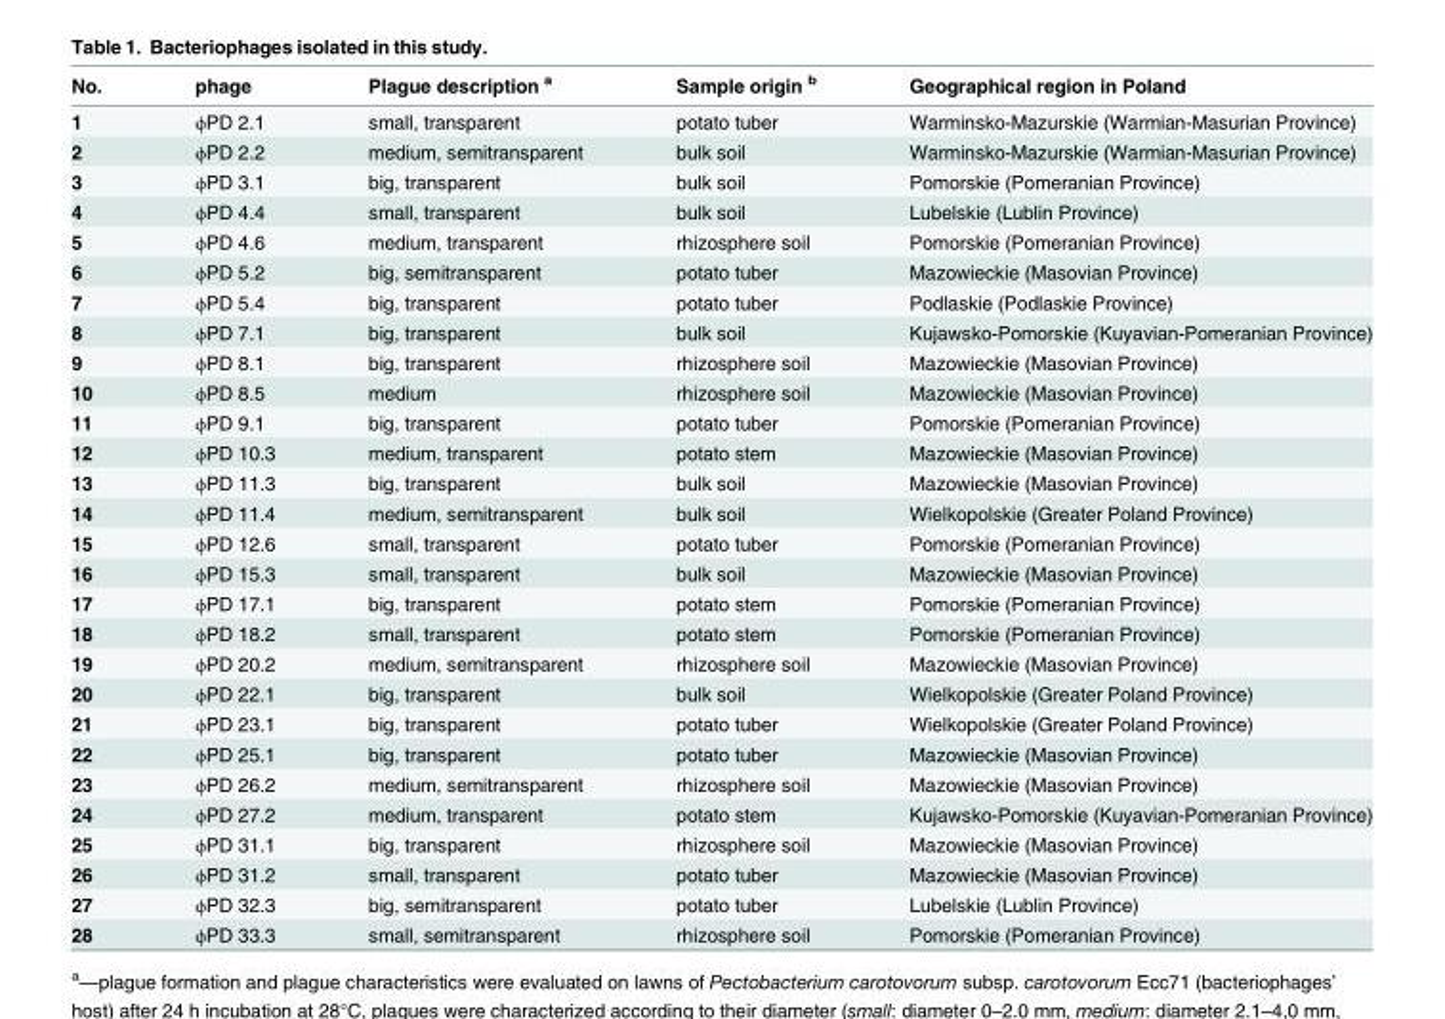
<table><thead><tr><td>No.</td><td>phage</td><td>Plague description <sup>a</sup></td><td>Sample origin <sup>b</sup></td><td>Geographical region in Poland</td></tr></thead><tbody><tr><td>1</td><td>ϕPD 2.1</td><td>small, transparent</td><td>potato tuber</td><td>Warminsko-Mazurskie (Warmian-Masurian Province)</td></tr><tr><td>2</td><td>ϕPD 2.2</td><td>medium, semitransparent</td><td>bulk soil</td><td>Warminsko-Mazurskie (Warmian-Masurian Province)</td></tr><tr><td>3</td><td>ϕPD 3.1</td><td>big, transparent</td><td>bulk soil</td><td>Pomorskie (Pomeranian Province)</td></tr><tr><td>4</td><td>ϕPD 4.4</td><td>small, transparent</td><td>bulk soil</td><td>Lubelskie (Lublin Province)</td></tr><tr><td>5</td><td>ϕPD 4.6</td><td>medium, transparent</td><td>rhizosphere soil</td><td>Pomorskie (Pomeranian Province)</td></tr><tr><td>6</td><td>ϕPD 5.2</td><td>big, semitransparent</td><td>potato tuber</td><td>Mazowieckie (Masovian Province)</td></tr><tr><td>7</td><td>ϕPD 5.4</td><td>big, transparent</td><td>potato tuber</td><td>Podlaskie (Podlaskie Province)</td></tr><tr><td>8</td><td>ϕPD 7.1</td><td>big, transparent</td><td>bulk soil</td><td>Kujawsko-Pomorskie (Kuyavian-Pomeranian Province)</td></tr><tr><td>9</td><td>ϕPD 8.1</td><td>big, transparent</td><td>rhizosphere soil</td><td>Mazowieckie (Masovian Province)</td></tr><tr><td>10</td><td>ϕPD 8.5</td><td>medium</td><td>rhizosphere soil</td><td>Mazowieckie (Masovian Province)</td></tr><tr><td>11</td><td>ϕPD 9.1</td><td>big, transparent</td><td>potato tuber</td><td>Pomorskie (Pomeranian Province)</td></tr><tr><td>12</td><td>ϕPD 10.3</td><td>medium, transparent</td><td>potato stem</td><td>Mazowieckie (Masovian Province)</td></tr><tr><td>13</td><td>ϕPD 11.3</td><td>big, transparent</td><td>bulk soil</td><td>Mazowieckie (Masovian Province)</td></tr><tr><td>14</td><td>ϕPD 11.4</td><td>medium, semitransparent</td><td>bulk soil</td><td>Wielkopolskie (Greater Poland Province)</td></tr><tr><td>15</td><td>ϕPD 12.6</td><td>small, transparent</td><td>potato tuber</td><td>Pomorskie (Pomeranian Province)</td></tr><tr><td>16</td><td>ϕPD 15.3</td><td>small, transparent</td><td>bulk soil</td><td>Mazowieckie (Masovian Province)</td></tr><tr><td>17</td><td>ϕPD 17.1</td><td>big, transparent</td><td>potato stem</td><td>Pomorskie (Pomeranian Province)</td></tr><tr><td>18</td><td>ϕPD 18.2</td><td>small, transparent</td><td>potato stem</td><td>Pomorskie (Pomeranian Province)</td></tr><tr><td>19</td><td>ϕPD 20.2</td><td>medium, semitransparent</td><td>rhizosphere soil</td><td>Mazowieckie (Masovian Province)</td></tr><tr><td>20</td><td>ϕPD 22.1</td><td>big, transparent</td><td>bulk soil</td><td>Wielkopolskie (Greater Poland Province)</td></tr><tr><td>21</td><td>ϕPD 23.1</td><td>big, transparent</td><td>potato tuber</td><td>Wielkopolskie (Greater Poland Province)</td></tr><tr><td>22</td><td>ϕPD 25.1</td><td>big, transparent</td><td>potato tuber</td><td>Mazowieckie (Masovian Province)</td></tr><tr><td>23</td><td>ϕPD 26.2</td><td>medium, semitransparent</td><td>rhizosphere soil</td><td>Mazowieckie (Masovian Province)</td></tr><tr><td>24</td><td>ϕPD 27.2</td><td>medium, transparent</td><td>potato stem</td><td>Kujawsko-Pomorskie (Kuyavian-Pomeranian Province)</td></tr><tr><td>25</td><td>ϕPD 31.1</td><td>big, transparent</td><td>rhizosphere soil</td><td>Mazowieckie (Masovian Province)</td></tr><tr><td>26</td><td>ϕPD 31.2</td><td>small, transparent</td><td>potato tuber</td><td>Mazowieckie (Masovian Province)</td></tr><tr><td>27</td><td>ϕPD 32.3</td><td>big, semitransparent</td><td>potato tuber</td><td>Lubelskie (Lublin Province)</td></tr><tr><td>28</td><td>ϕPD 33.3</td><td>small, semitransparent</td><td>rhizosphere soil</td><td>Pomorskie (Pomeranian Province)</td></tr></tbody></table>